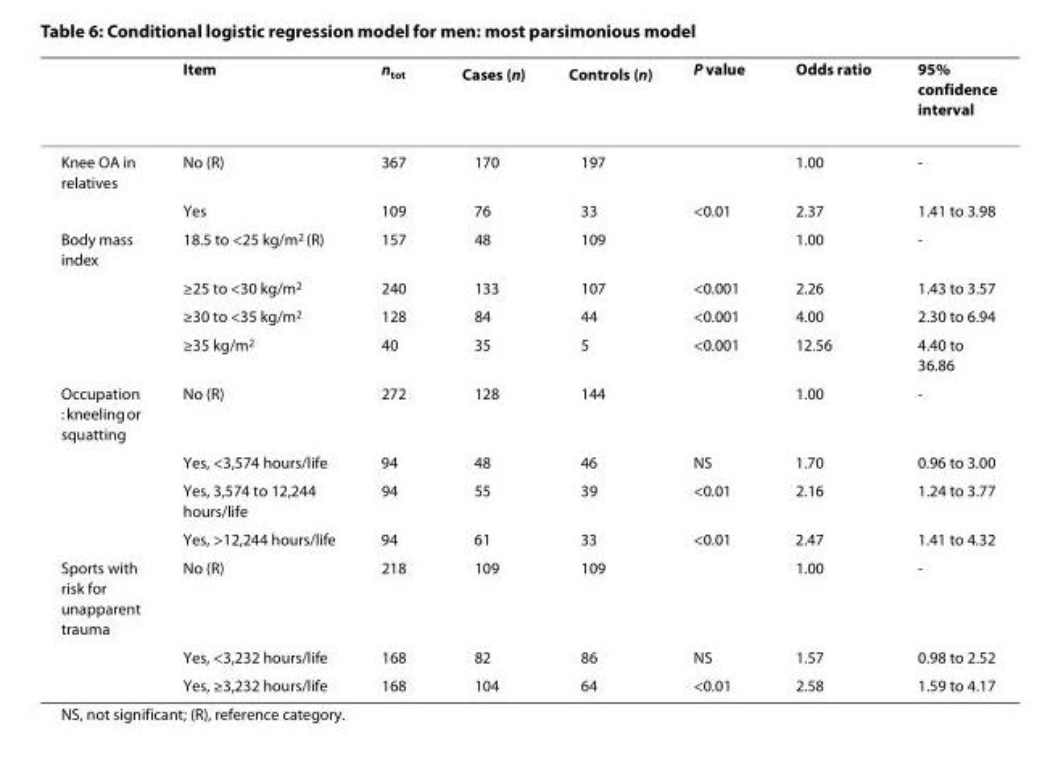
<table><thead><tr><td></td><td>Item</td><td>n<sub>tot</sub></td><td>Cases (n)</td><td>Controls (n)</td><td>P value</td><td>Odds ratio</td><td>95% confidence interval</td></tr></thead><tbody><tr><td rowspan="2">Knee OA in relatives</td><td>No (R)</td><td>367</td><td>170</td><td>197</td><td></td><td>1.00</td><td>-</td></tr><tr><td>Yes</td><td>109</td><td>76</td><td>33</td><td>&lt;0.01</td><td>2.37</td><td>1.41 to 3.98</td></tr><tr><td rowspan="4">Body mass index</td><td>18.5 to &lt;25 kg/m<sup>2</sup> (R)</td><td>157</td><td>48</td><td>109</td><td></td><td>1.00</td><td>-</td></tr><tr><td>≥25 to &lt;30 kg/m<sup>2</sup></td><td>240</td><td>133</td><td>107</td><td>&lt;0.001</td><td>2.26</td><td>1.43 to 3.57</td></tr><tr><td>≥30 to &lt;35 kg/m<sup>2</sup></td><td>128</td><td>84</td><td>44</td><td>&lt;0.001</td><td>4.00</td><td>2.30 to 6.94</td></tr><tr><td>≥35 kg/m<sup>2</sup></td><td>40</td><td>35</td><td>5</td><td>&lt;0.001</td><td>12.56</td><td>4.40 to 36.86</td></tr><tr><td rowspan="4">Occupation : kneeling or squatting</td><td>No (R)</td><td>272</td><td>128</td><td>144</td><td></td><td>1.00</td><td>-</td></tr><tr><td>Yes, &lt;3,574 hours/life</td><td>94</td><td>48</td><td>46</td><td>NS</td><td>1.70</td><td>0.96 to 3.00</td></tr><tr><td>Yes, 3,574 to 12,244 hours/life</td><td>94</td><td>55</td><td>39</td><td>&lt;0.01</td><td>2.16</td><td>1.24 to 3.77</td></tr><tr><td>Yes, &gt;12,244 hours/life</td><td>94</td><td>61</td><td>33</td><td>&lt;0.01</td><td>2.47</td><td>1.41 to 4.32</td></tr><tr><td rowspan="3">Sports with risk for unapparent trauma</td><td>No (R)</td><td>218</td><td>109</td><td>109</td><td></td><td>1.00</td><td>-</td></tr><tr><td>Yes, &lt;3,232 hours/life</td><td>168</td><td>82</td><td>86</td><td>NS</td><td>1.57</td><td>0.98 to 2.52</td></tr><tr><td>Yes, ≥3,232 hours/life</td><td>168</td><td>104</td><td>64</td><td>&lt;0.01</td><td>2.58</td><td>1.59 to 4.17</td></tr></tbody></table>